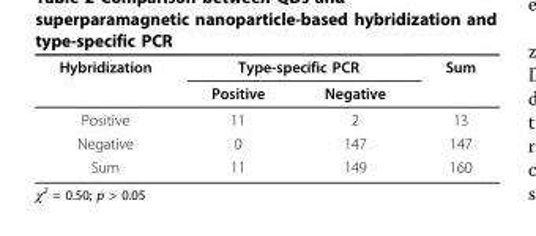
<table><thead><tr><td rowspan="2">Hybridization</td><td colspan="2">Type-specific PCR</td><td rowspan="2">Sum</td></tr><tr><td>Positive</td><td>Negative</td></tr></thead><tbody><tr><td>Positive</td><td>11</td><td>2</td><td>13</td></tr><tr><td>Negative</td><td>0</td><td>147</td><td>147</td></tr><tr><td>Sum</td><td>11</td><td>149</td><td>160</td></tr></tbody></table>